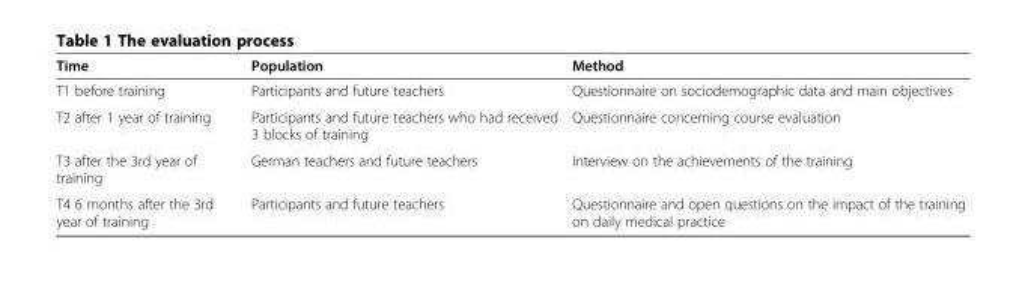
<table><thead><tr><td>Time</td><td>Population</td><td>Method</td></tr></thead><tbody><tr><td>T1 before training</td><td>Participants and future teachers</td><td>Questionnaire on sociodemographic data and main objectives</td></tr><tr><td>T2 after 1 year of training</td><td>Participants and future teachers who had received 3 blocks of training</td><td>Questionnaire concerning course evaluation</td></tr><tr><td>T3 after the 3rd year of training</td><td>German teachers and future teachers</td><td>Interview on the achievements of the training</td></tr><tr><td>T4 6 months after the 3rd year of training</td><td>Participants and future teachers</td><td>Questionnaire and open questions on the impact of the training on daily medical practice</td></tr></tbody></table>